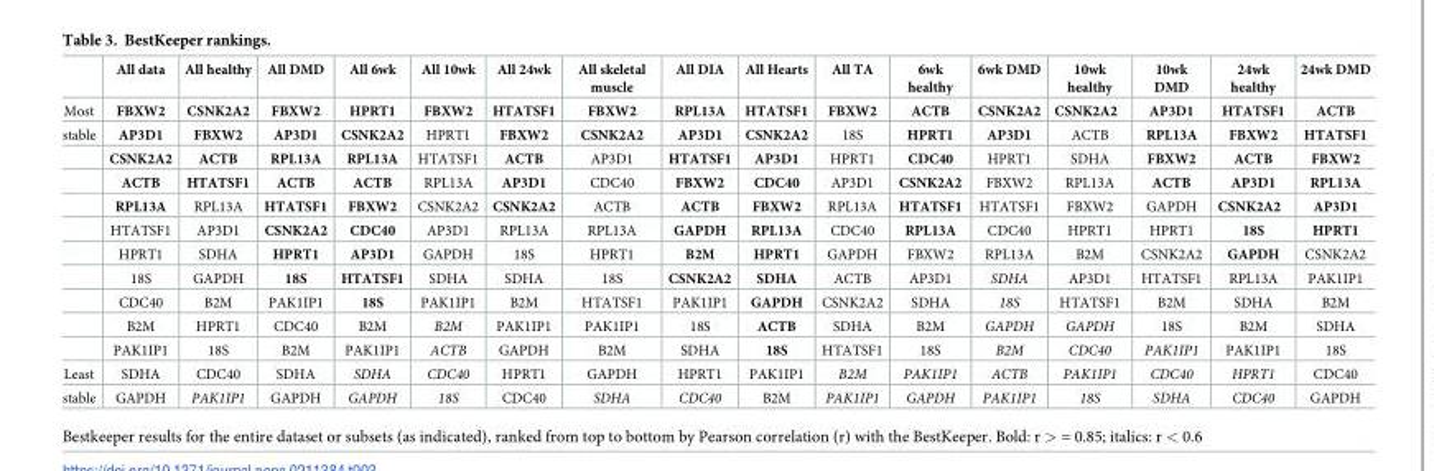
<table><thead><tr><td></td><td>All data</td><td>All healthy</td><td>All DMD</td><td>All 6wk</td><td>All 10wk</td><td>All 24wk</td><td>All skeletal muscle</td><td>All DIA</td><td>All Hearts</td><td>All TA</td><td>6wk healthy</td><td>6wk DMD</td><td>10wk healthy</td><td>10wk DMD</td><td>24wk healthy</td><td>24wk DMD</td></tr></thead><tbody><tr><td>Most</td><td>FBXW2</td><td>CSNK2A2</td><td>FBXW2</td><td>HPRT1</td><td>FBXW2</td><td>HTATSF1</td><td>FBXW2</td><td>RPL13A</td><td>HTATSF1</td><td>FBXW2</td><td>ACTB</td><td>CSNK2A2</td><td>CSNK2A2</td><td>AP3D1</td><td>HTATSF1</td><td>ACTB</td></tr><tr><td rowspan="10">stable</td><td>AP3D1</td><td>FBXW2</td><td>AP3D1</td><td>CSNK2A2</td><td>HPRT1</td><td>FBXW2</td><td>CSNK2A2</td><td>AP3D1</td><td>CSNK2A2</td><td>18S</td><td>HPRT1</td><td>AP3D1</td><td>ACTB</td><td>RPL13A</td><td>FBXW2</td><td>HTATSF1</td></tr><tr><td>CSNK2A2</td><td>ACTB</td><td>RPL13A</td><td>RPL13A</td><td>HTATSF1</td><td>ACTB</td><td>AP3D1</td><td>HTATSF1</td><td>AP3D1</td><td>HPRT1</td><td>CDC40</td><td>HPRT1</td><td>SDHA</td><td>FBXW2</td><td>ACTB</td><td>FBXW2</td></tr><tr><td>ACTB</td><td>HTATSF1</td><td>ACTB</td><td>ACTB</td><td>RPL13A</td><td>AP3D1</td><td>CDC40</td><td>FBXW2</td><td>CDC40</td><td>AP3D1</td><td>CSNK2A2</td><td>FBXW2</td><td>RPL13A</td><td>ACTB</td><td>AP3D1</td><td>RPL13A</td></tr><tr><td>RPL13A</td><td>RPL13A</td><td>HTATSF1</td><td>FBXW2</td><td>CSNK2A2</td><td>CSNK2A2</td><td>ACTB</td><td>ACTB</td><td>FBXW2</td><td>RPL13A</td><td>HTATSF1</td><td>HTATSF1</td><td>FBXW2</td><td>GAPDH</td><td>CSNK2A2</td><td>AP3D1</td></tr><tr><td>HTATSF1</td><td>AP3D1</td><td>CSNK2A2</td><td>CDC40</td><td>AP3D1</td><td>RPL13A</td><td>RPL13A</td><td>GAPDH</td><td>RPL13A</td><td>CDC40</td><td>RPL13A</td><td>CDC40</td><td>HPRT1</td><td>HPRT1</td><td>18S</td><td>HPRT1</td></tr><tr><td>HPRT1</td><td>SDHA</td><td>HPRT1</td><td>AP3D1</td><td>GAPDH</td><td>18S</td><td>HPRT1</td><td>B2M</td><td>HPRT1</td><td>GAPDH</td><td>FBXW2</td><td>RPL13A</td><td>B2M</td><td>CSNK2A2</td><td>GAPDH</td><td>CSNK2A2</td></tr><tr><td>18S</td><td>GAPDH</td><td>18S</td><td>HTATSF1</td><td>SDHA</td><td>SDHA</td><td>18S</td><td>CSNK2A2</td><td>SDHA</td><td>ACTB</td><td>AP3D1</td><td>SDHA</td><td>AP3D1</td><td>HTATSF1</td><td>RPL13A</td><td>PAK1IP1</td></tr><tr><td>CDC40</td><td>B2M</td><td>PAK1IP1</td><td>18S</td><td>PAK1IP1</td><td>B2M</td><td>HTATSF1</td><td>PAK1IP1</td><td>GAPDH</td><td>CSNK2A2</td><td>SDHA</td><td>18S</td><td>HTATSF1</td><td>B2M</td><td>SDHA</td><td>B2M</td></tr><tr><td>B2M</td><td>HPRT1</td><td>CDC40</td><td>B2M</td><td>B2M</td><td>PAK1IP1</td><td>PAK1IP1</td><td>18S</td><td>ACTB</td><td>SDHA</td><td>B2M</td><td>GAPDH</td><td>GAPDH</td><td>18S</td><td>B2M</td><td>SDHA</td></tr><tr><td>PAK1IP1</td><td>18S</td><td>B2M</td><td>PAK1IP1</td><td>ACTB</td><td>GAPDH</td><td>B2M</td><td>SDHA</td><td>18S</td><td>HTATSF1</td><td>18S</td><td>B2M</td><td>CDC40</td><td>PAK1IP1</td><td>PAK1IP1</td><td>18S</td></tr><tr><td>Least</td><td>SDHA</td><td>CDC40</td><td>SDHA</td><td>SDHA</td><td>CDC40</td><td>HPRT1</td><td>GAPDH</td><td>HPRT1</td><td>PAK1IP1</td><td>B2M</td><td>PAK1IP1</td><td>ACTB</td><td>PAK1IP1</td><td>CDC40</td><td>HPRT1</td><td>CDC40</td></tr><tr><td>stable</td><td>GAPDH</td><td>PAK1IP1</td><td>GAPDH</td><td>GAPDH</td><td>18S</td><td>CDC40</td><td>SDHA</td><td>CDC40</td><td>B2M</td><td>PAK1IP1</td><td>GAPDH</td><td>PAK1IP1</td><td>18S</td><td>SDHA</td><td>CDC40</td><td>GAPDH</td></tr></tbody></table>